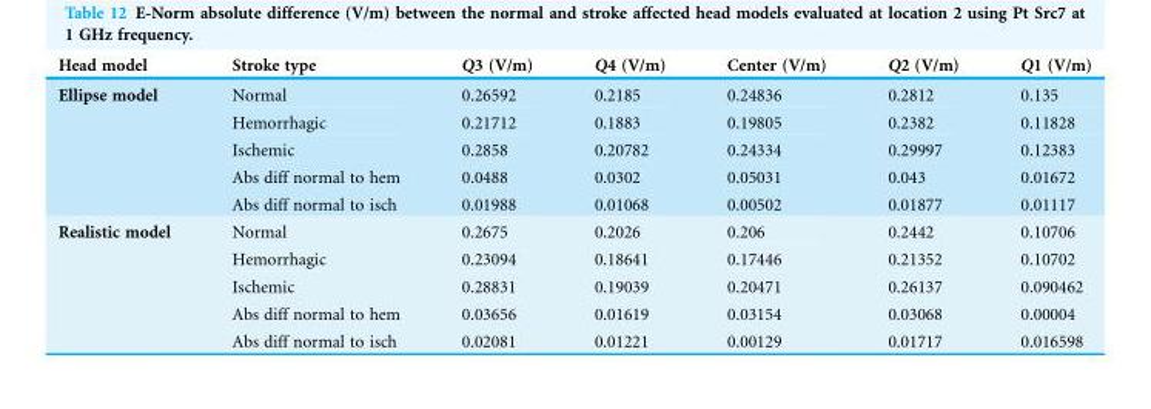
<table><thead><tr><td>Head model</td><td>Stroke type</td><td>Q3 (V/m)</td><td>Q4 (V/m)</td><td>Center (V/m)</td><td>Q2 (V/m)</td><td>Q1 (V/m)</td></tr></thead><tbody><tr><td rowspan="5">Ellipse model</td><td>Normal</td><td>0.26592</td><td>0.2185</td><td>0.24836</td><td>0.2812</td><td>0.135</td></tr><tr><td>Hemorrhagic</td><td>0.21712</td><td>0.1883</td><td>0.19805</td><td>0.2382</td><td>0.11828</td></tr><tr><td>Ischemic</td><td>0.2858</td><td>0.20782</td><td>0.24334</td><td>0.29997</td><td>0.12383</td></tr><tr><td>Abs diff normal to hem</td><td>0.0488</td><td>0.0302</td><td>0.05031</td><td>0.043</td><td>0.01672</td></tr><tr><td>Abs diff normal to isch</td><td>0.01988</td><td>0.01068</td><td>0.00502</td><td>0.01877</td><td>0.01117</td></tr><tr><td rowspan="5">Realistic model</td><td>Normal</td><td>0.2675</td><td>0.2026</td><td>0.206</td><td>0.2442</td><td>0.10706</td></tr><tr><td>Hemorrhagic</td><td>0.23094</td><td>0.18641</td><td>0.17446</td><td>0.21352</td><td>0.10702</td></tr><tr><td>Ischemic</td><td>0.28831</td><td>0.19039</td><td>0.20471</td><td>0.26137</td><td>0.090462</td></tr><tr><td>Abs diff normal to hem</td><td>0.03656</td><td>0.01619</td><td>0.03154</td><td>0.03068</td><td>0.00004</td></tr><tr><td>Abs diff normal to isch</td><td>0.02081</td><td>0.01221</td><td>0.00129</td><td>0.01717</td><td>0.016598</td></tr></tbody></table>